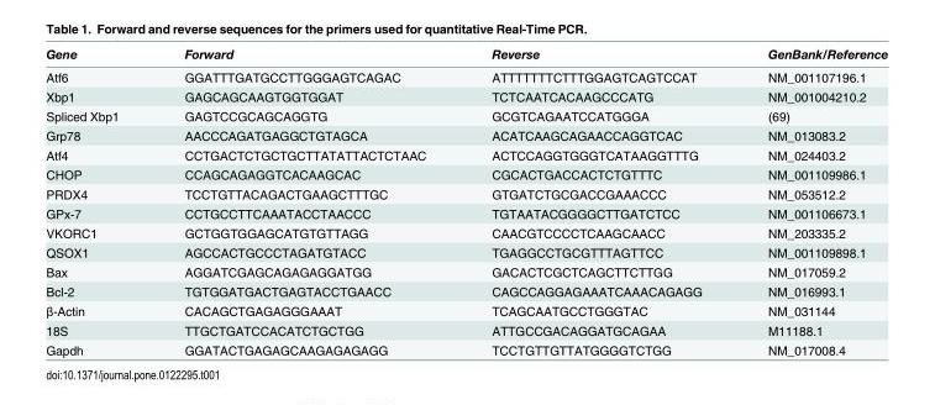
<table><thead><tr><td>Gene</td><td>Forward</td><td>Reverse</td><td>GenBank/Reference</td></tr></thead><tbody><tr><td>Atf6</td><td>GGATTTGATGCCTTGGGAGTCAGAC</td><td>ATTTTTTTCTTTGGAGTCAGTCCAT</td><td>NM_001107196.1</td></tr><tr><td>Xbp1</td><td>GAGCAGCAAGTGGTGGAT</td><td>TCTCAATCACAAGCCCATG</td><td>NM_001004210.2</td></tr><tr><td>Spliced Xbp1</td><td>GAGTCCGCAGCAGGTG</td><td>GCGTCAGAATCCATGGGA</td><td>(69)</td></tr><tr><td>Grp78</td><td>AACCCAGATGAGGCTGTAGCA</td><td>ACATCAAGCAGAACCAGGTCAC</td><td>NM_013083.2</td></tr><tr><td>Atf4</td><td>CCTGACTCTGCTGCTTATATTACTCTAAC</td><td>ACTCCAGGTGGGTCATAAGGTTTG</td><td>NM_024403.2</td></tr><tr><td>CHOP</td><td>CCAGCAGAGGTCACAAGCAC</td><td>CGCACTGACCACTCTGTTTC</td><td>NM_001109986.1</td></tr><tr><td>PRDX4</td><td>TCCTGTTACAGACTGAAGCTTTGC</td><td>GTGATCTGCGACCGAAACCC</td><td>NM_053512.2</td></tr><tr><td>GPx-7</td><td>CCTGCCTTCAAATACCTAACCC</td><td>TGTAATACGGGGCTTGATCTCC</td><td>NM_001106673.1</td></tr><tr><td>VKORC1</td><td>GCTGGTGGAGCATGTGTTAGG</td><td>CAACGTCCCCTCAAGCAACC</td><td>NM_203335.2</td></tr><tr><td>QSOX1</td><td>AGCCACTGCCCTAGATGTACC</td><td>TGAGGCCTGCGTTTAGTTCC</td><td>NM_001109898.1</td></tr><tr><td>Bax</td><td>AGGATCGAGCAGAGAGGATGG</td><td>GACACTCGCTCAGCTTCTTGG</td><td>NM_017059.2</td></tr><tr><td>Bcl-2</td><td>TGTGGATGACTGAGTACCTGAACC</td><td>CAGCCAGGAGAAATCAAACAGAGG</td><td>NM_016993.1</td></tr><tr><td>β-Actin</td><td>CACAGCTGAGAGGGAAAT</td><td>TCAGCAATGCCTGGGTAC</td><td>NM_031144</td></tr><tr><td>18S</td><td>TTGCTGATCCACATCTGCTGG</td><td>ATTGCCGACAGGATGCAGAA</td><td>M11188.1</td></tr><tr><td>Gapdh</td><td>GGATACTGAGAGCAAGAGAGAGG</td><td>TCCTGTTGTTATGGGGTCTGG</td><td>NM_017008.4</td></tr></tbody></table>